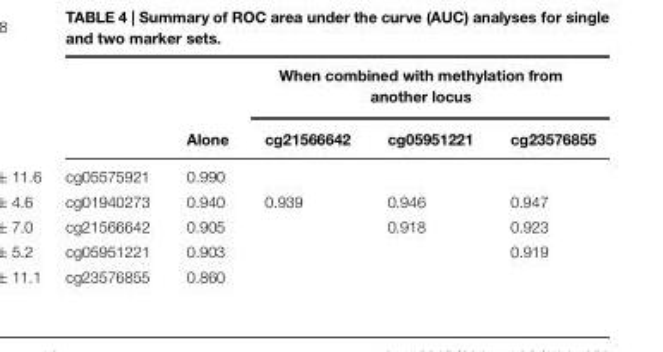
<table><thead><tr><td rowspan="2"></td><td rowspan="2">Alone</td><td colspan="3">When combined with methylation from another locus</td></tr><tr><td>cg21566642</td><td>cg05951221</td><td>cg23576855</td></tr></thead><tbody><tr><td>cg05575921</td><td>0.990</td><td></td><td></td><td></td></tr><tr><td>cg01940273</td><td>0.940</td><td>0.939</td><td>0.946</td><td>0.947</td></tr><tr><td>cg21566642</td><td>0.905</td><td></td><td>0.918</td><td>0.923</td></tr><tr><td>cg05951221</td><td>0.903</td><td></td><td></td><td>0.919</td></tr><tr><td>cg23576855</td><td>0.860</td><td></td><td></td><td></td></tr></tbody></table>